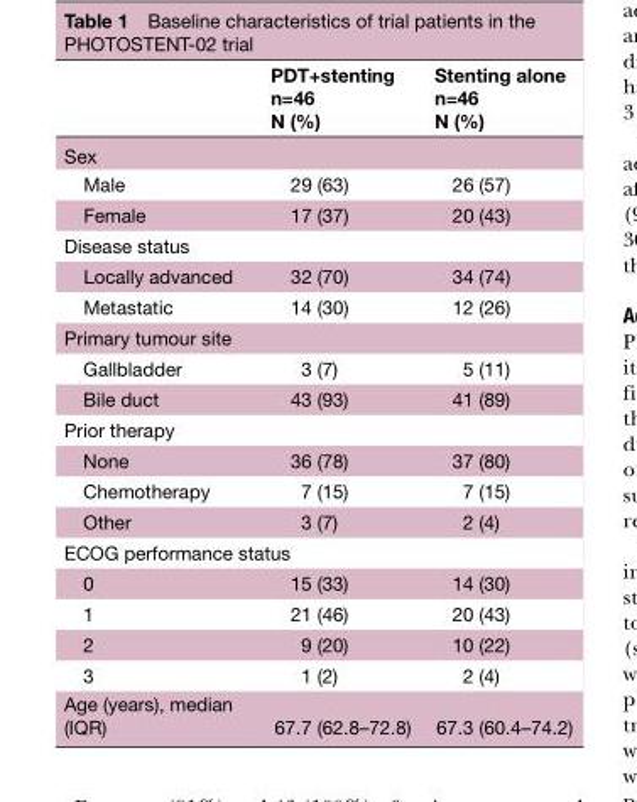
<table><thead><tr><td></td><td>PDT+stenting n=46 N (%)</td><td>Stenting alone n=46 N (%)</td></tr></thead><tbody><tr><td colspan="3">Sex</td></tr><tr><td>Male</td><td>29 (63)</td><td>26 (57)</td></tr><tr><td>Female</td><td>17 (37)</td><td>20 (43)</td></tr><tr><td colspan="3">Disease status</td></tr><tr><td>Locally advanced</td><td>32 (70)</td><td>34 (74)</td></tr><tr><td>Metastatic</td><td>14 (30)</td><td>12 (26)</td></tr><tr><td colspan="3">Primary tumour site</td></tr><tr><td>Gallbladder</td><td>3 (7)</td><td>5 (11)</td></tr><tr><td>Bile duct</td><td>43 (93)</td><td>41 (89)</td></tr><tr><td colspan="3">Prior therapy</td></tr><tr><td>None</td><td>36 (78)</td><td>37 (80)</td></tr><tr><td>Chemotherapy</td><td>7 (15)</td><td>7 (15)</td></tr><tr><td>Other</td><td>3 (7)</td><td>2 (4)</td></tr><tr><td colspan="3">ECOG performance status</td></tr><tr><td>0</td><td>15 (33)</td><td>14 (30)</td></tr><tr><td>1</td><td>21 (46)</td><td>20 (43)</td></tr><tr><td>2</td><td>9 (20)</td><td>10 (22)</td></tr><tr><td>3</td><td>1 (2)</td><td>2 (4)</td></tr><tr><td>Age (years), median (IQR)</td><td>67.7 (62.8–72.8)</td><td>67.3 (60.4–74.2)</td></tr></tbody></table>